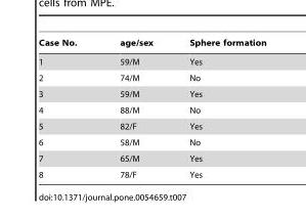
<table><thead><tr><td>Case No.</td><td>age/sex</td><td>Sphere formation</td></tr></thead><tbody><tr><td>1</td><td>59/M</td><td>Yes</td></tr><tr><td>2</td><td>74/M</td><td>No</td></tr><tr><td>3</td><td>59/M</td><td>Yes</td></tr><tr><td>4</td><td>88/M</td><td>No</td></tr><tr><td>5</td><td>82/F</td><td>Yes</td></tr><tr><td>6</td><td>58/M</td><td>No</td></tr><tr><td>7</td><td>65/M</td><td>Yes</td></tr><tr><td>8</td><td>78/F</td><td>Yes</td></tr></tbody></table>